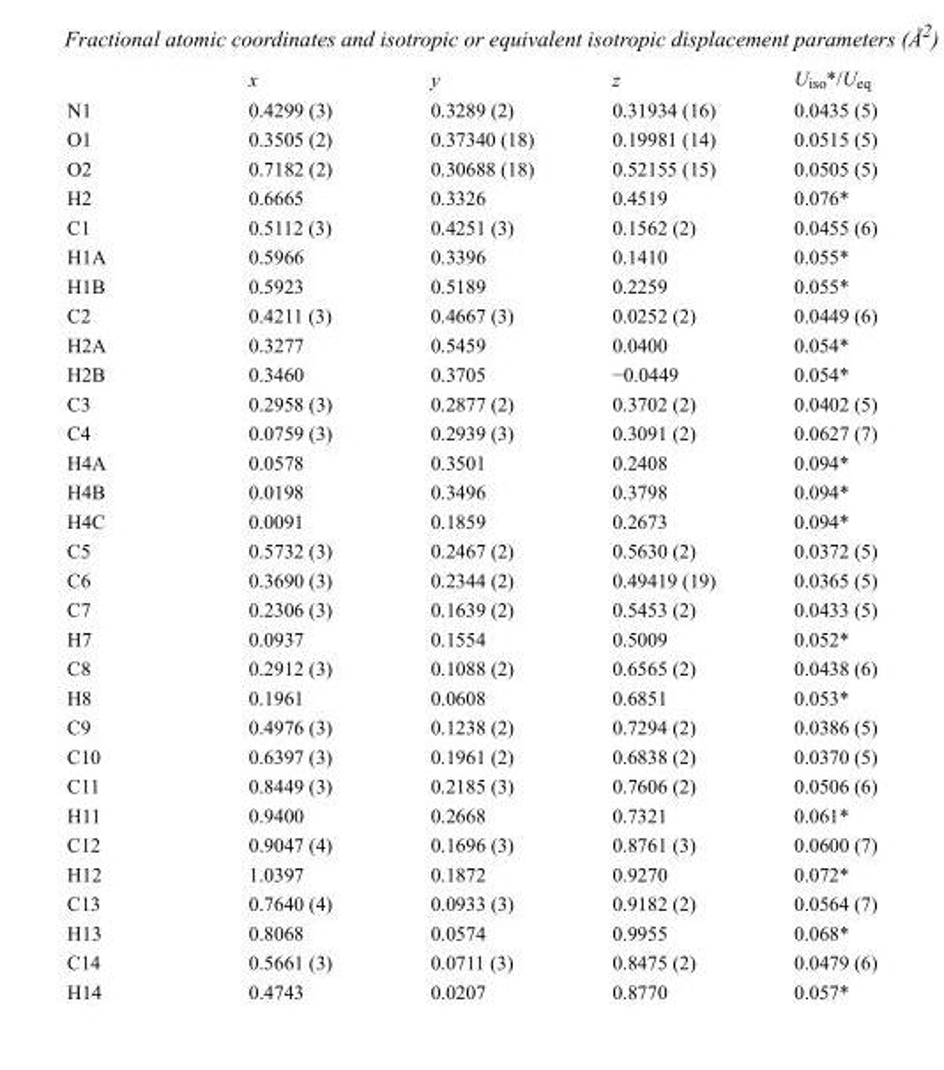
<table><thead><tr><td></td><td>x</td><td>y</td><td>z</td><td>U<sub>iso</sub>*/U<sub>eq</sub></td></tr></thead><tbody><tr><td>N1</td><td>0.4299 (3)</td><td>0.3289 (2)</td><td>0.31934 (16)</td><td>0.0435 (5)</td></tr><tr><td>O1</td><td>0.3505 (2)</td><td>0.37340 (18)</td><td>0.19981 (14)</td><td>0.0515 (5)</td></tr><tr><td>O2</td><td>0.7182 (2)</td><td>0.30688 (18)</td><td>0.52155 (15)</td><td>0.0505 (5)</td></tr><tr><td>H2</td><td>0.6665</td><td>0.3326</td><td>0.4519</td><td>0.076*</td></tr><tr><td>C1</td><td>0.5112 (3)</td><td>0.4251 (3)</td><td>0.1562 (2)</td><td>0.0455 (6)</td></tr><tr><td>H1A</td><td>0.5966</td><td>0.3396</td><td>0.1410</td><td>0.055*</td></tr><tr><td>H1B</td><td>0.5923</td><td>0.5189</td><td>0.2259</td><td>0.055*</td></tr><tr><td>C2</td><td>0.4211 (3)</td><td>0.4667 (3)</td><td>0.0252 (2)</td><td>0.0449 (6)</td></tr><tr><td>H2A</td><td>0.3277</td><td>0.5459</td><td>0.0400</td><td>0.054*</td></tr><tr><td>H2B</td><td>0.3460</td><td>0.3705</td><td>−0.0449</td><td>0.054*</td></tr><tr><td>C3</td><td>0.2958 (3)</td><td>0.2877 (2)</td><td>0.3702 (2)</td><td>0.0402 (5)</td></tr><tr><td>C4</td><td>0.0759 (3)</td><td>0.2939 (3)</td><td>0.3091 (2)</td><td>0.0627 (7)</td></tr><tr><td>H4A</td><td>0.0578</td><td>0.3501</td><td>0.2408</td><td>0.094*</td></tr><tr><td>H4B</td><td>0.0198</td><td>0.3496</td><td>0.3798</td><td>0.094*</td></tr><tr><td>H4C</td><td>0.0091</td><td>0.1859</td><td>0.2673</td><td>0.094*</td></tr><tr><td>C5</td><td>0.5732 (3)</td><td>0.2467 (2)</td><td>0.5630 (2)</td><td>0.0372 (5)</td></tr><tr><td>C6</td><td>0.3690 (3)</td><td>0.2344 (2)</td><td>0.49419 (19)</td><td>0.0365 (5)</td></tr><tr><td>C7</td><td>0.2306 (3)</td><td>0.1639 (2)</td><td>0.5453 (2)</td><td>0.0433 (5)</td></tr><tr><td>H7</td><td>0.0937</td><td>0.1554</td><td>0.5009</td><td>0.052*</td></tr><tr><td>C8</td><td>0.2912 (3)</td><td>0.1088 (2)</td><td>0.6565 (2)</td><td>0.0438 (6)</td></tr><tr><td>H8</td><td>0.1961</td><td>0.0608</td><td>0.6851</td><td>0.053*</td></tr><tr><td>C9</td><td>0.4976 (3)</td><td>0.1238 (2)</td><td>0.7294 (2)</td><td>0.0386 (5)</td></tr><tr><td>C10</td><td>0.6397 (3)</td><td>0.1961 (2)</td><td>0.6838 (2)</td><td>0.0370 (5)</td></tr><tr><td>C11</td><td>0.8449 (3)</td><td>0.2185 (3)</td><td>0.7606 (2)</td><td>0.0506 (6)</td></tr><tr><td>H11</td><td>0.9400</td><td>0.2668</td><td>0.7321</td><td>0.061*</td></tr><tr><td>C12</td><td>0.9047 (4)</td><td>0.1696 (3)</td><td>0.8761 (3)</td><td>0.0600 (7)</td></tr><tr><td>H12</td><td>1.0397</td><td>0.1872</td><td>0.9270</td><td>0.072*</td></tr><tr><td>C13</td><td>0.7640 (4)</td><td>0.0933 (3)</td><td>0.9182 (2)</td><td>0.0564 (7)</td></tr><tr><td>H13</td><td>0.8068</td><td>0.0574</td><td>0.9955</td><td>0.068*</td></tr><tr><td>C14</td><td>0.5661 (3)</td><td>0.0711 (3)</td><td>0.8475 (2)</td><td>0.0479 (6)</td></tr><tr><td>H14</td><td>0.4743</td><td>0.0207</td><td>0.8770</td><td>0.057*</td></tr></tbody></table>